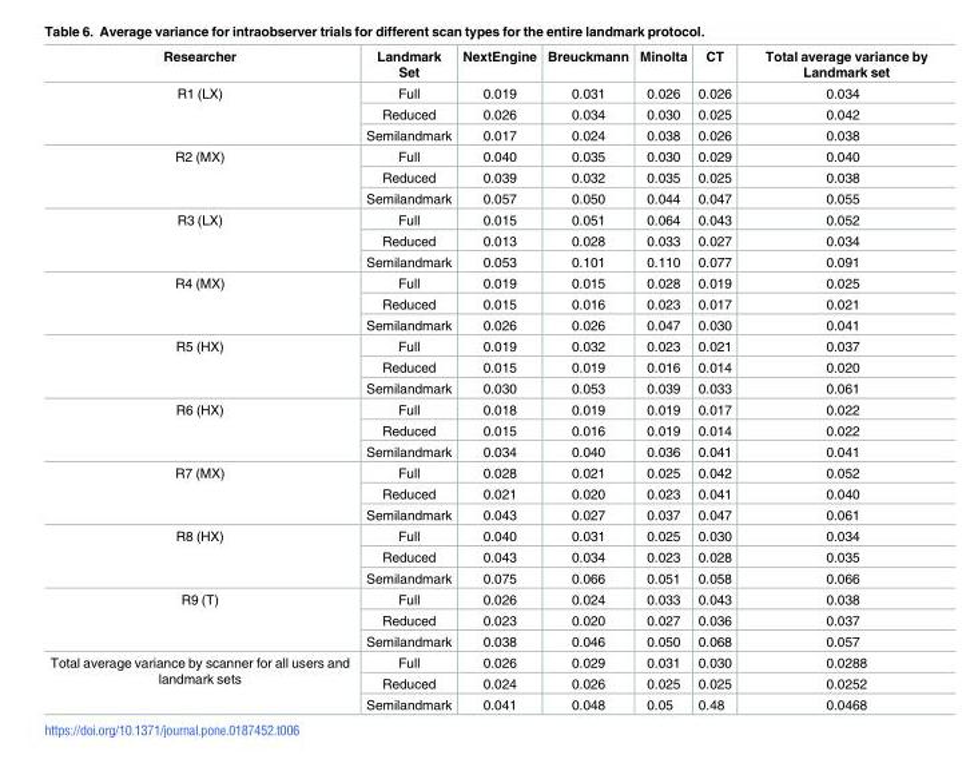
<table><thead><tr><td>Researcher</td><td>Landmark Set</td><td>NextEngine</td><td>Breuckmann</td><td>Minolta</td><td>CT</td><td>Total average variance by Landmark set</td></tr></thead><tbody><tr><td rowspan="3">R1 (LX)</td><td>Full</td><td>0.019</td><td>0.031</td><td>0.026</td><td>0.026</td><td>0.034</td></tr><tr><td>Reduced</td><td>0.026</td><td>0.034</td><td>0.030</td><td>0.025</td><td>0.042</td></tr><tr><td>Semilandmark</td><td>0.017</td><td>0.024</td><td>0.038</td><td>0.026</td><td>0.038</td></tr><tr><td rowspan="3">R2 (MX)</td><td>Full</td><td>0.040</td><td>0.035</td><td>0.030</td><td>0.029</td><td>0.040</td></tr><tr><td>Reduced</td><td>0.039</td><td>0.032</td><td>0.035</td><td>0.025</td><td>0.038</td></tr><tr><td>Semilandmark</td><td>0.057</td><td>0.050</td><td>0.044</td><td>0.047</td><td>0.055</td></tr><tr><td rowspan="3">R3 (LX)</td><td>Full</td><td>0.015</td><td>0.051</td><td>0.064</td><td>0.043</td><td>0.052</td></tr><tr><td>Reduced</td><td>0.013</td><td>0.028</td><td>0.033</td><td>0.027</td><td>0.034</td></tr><tr><td>Semilandmark</td><td>0.053</td><td>0.101</td><td>0.110</td><td>0.077</td><td>0.091</td></tr><tr><td rowspan="3">R4 (MX)</td><td>Full</td><td>0.019</td><td>0.015</td><td>0.028</td><td>0.019</td><td>0.025</td></tr><tr><td>Reduced</td><td>0.015</td><td>0.016</td><td>0.023</td><td>0.017</td><td>0.021</td></tr><tr><td>Semilandmark</td><td>0.026</td><td>0.026</td><td>0.047</td><td>0.030</td><td>0.041</td></tr><tr><td rowspan="3">R5 (HX)</td><td>Full</td><td>0.019</td><td>0.032</td><td>0.023</td><td>0.021</td><td>0.037</td></tr><tr><td>Reduced</td><td>0.015</td><td>0.019</td><td>0.016</td><td>0.014</td><td>0.020</td></tr><tr><td>Semilandmark</td><td>0.030</td><td>0.053</td><td>0.039</td><td>0.033</td><td>0.061</td></tr><tr><td rowspan="3">R6 (HX)</td><td>Full</td><td>0.018</td><td>0.019</td><td>0.019</td><td>0.017</td><td>0.022</td></tr><tr><td>Reduced</td><td>0.015</td><td>0.016</td><td>0.019</td><td>0.014</td><td>0.022</td></tr><tr><td>Semilandmark</td><td>0.034</td><td>0.040</td><td>0.036</td><td>0.041</td><td>0.041</td></tr><tr><td rowspan="3">R7 (MX)</td><td>Full</td><td>0.028</td><td>0.021</td><td>0.025</td><td>0.042</td><td>0.052</td></tr><tr><td>Reduced</td><td>0.021</td><td>0.020</td><td>0.023</td><td>0.041</td><td>0.040</td></tr><tr><td>Semilandmark</td><td>0.043</td><td>0.027</td><td>0.037</td><td>0.047</td><td>0.061</td></tr><tr><td rowspan="3">R8 (HX)</td><td>Full</td><td>0.040</td><td>0.031</td><td>0.025</td><td>0.030</td><td>0.034</td></tr><tr><td>Reduced</td><td>0.043</td><td>0.034</td><td>0.023</td><td>0.028</td><td>0.035</td></tr><tr><td>Semilandmark</td><td>0.075</td><td>0.066</td><td>0.051</td><td>0.058</td><td>0.066</td></tr><tr><td rowspan="3">R9 (T)</td><td>Full</td><td>0.026</td><td>0.024</td><td>0.033</td><td>0.043</td><td>0.038</td></tr><tr><td>Reduced</td><td>0.023</td><td>0.020</td><td>0.027</td><td>0.036</td><td>0.037</td></tr><tr><td>Semilandmark</td><td>0.038</td><td>0.046</td><td>0.050</td><td>0.068</td><td>0.057</td></tr><tr><td rowspan="3">Total average variance by scanner for all users and landmark sets</td><td>Full</td><td>0.026</td><td>0.029</td><td>0.031</td><td>0.030</td><td>0.0288</td></tr><tr><td>Reduced</td><td>0.024</td><td>0.026</td><td>0.025</td><td>0.025</td><td>0.0252</td></tr><tr><td>Semilandmark</td><td>0.041</td><td>0.048</td><td>0.05</td><td>0.48</td><td>0.0468</td></tr></tbody></table>